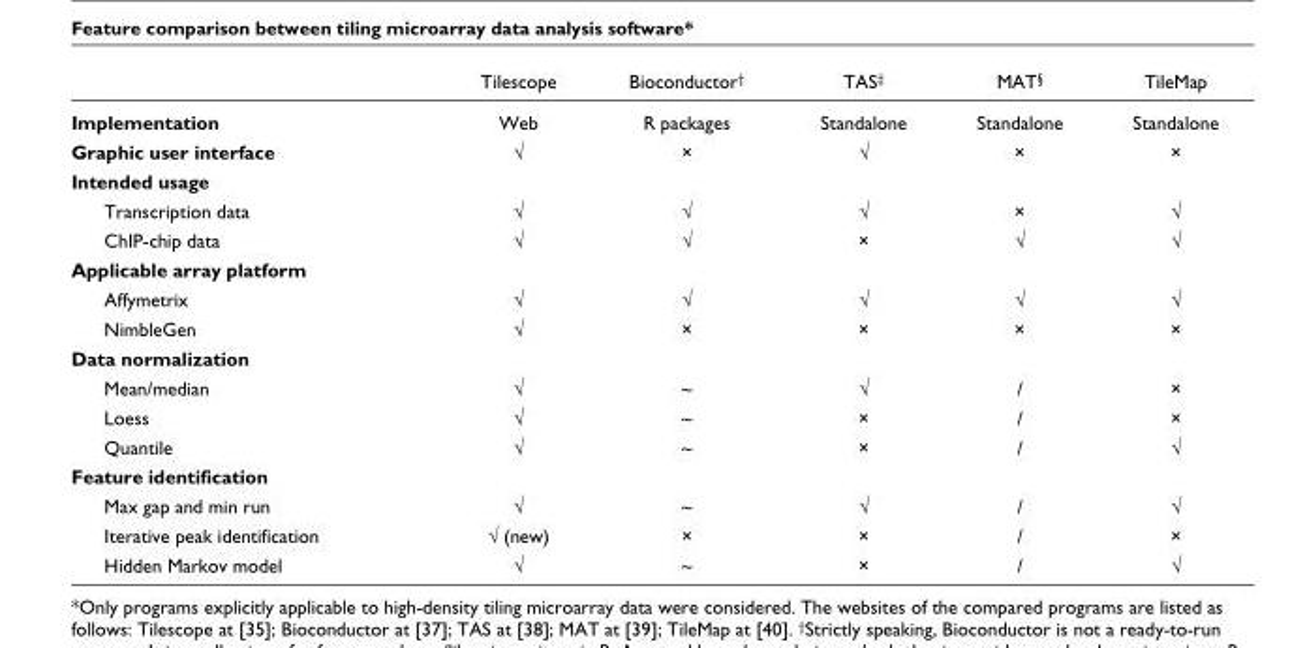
<table><thead><tr><td></td><td>Tilescope</td><td>Bioconductor<sup>†</sup></td><td>TAS<sup>‡</sup></td><td>MAT<sup>§</sup></td><td>TileMap</td></tr></thead><tbody><tr><td>Implementation</td><td>Web</td><td>R packages</td><td>Standalone</td><td>Standalone</td><td>Standalone</td></tr><tr><td>Graphic user interface</td><td>√</td><td>×</td><td>√</td><td>×</td><td>×</td></tr><tr><td colspan="6">Intended usage</td></tr><tr><td>Transcription data</td><td>√</td><td>√</td><td>√</td><td>×</td><td>√</td></tr><tr><td>ChIP-chip data</td><td>√</td><td>√</td><td>×</td><td>√</td><td>√</td></tr><tr><td colspan="6">Applicable array platform</td></tr><tr><td>Affymetrix</td><td>√</td><td>√</td><td>√</td><td>√</td><td>√</td></tr><tr><td>NimbleGen</td><td>√</td><td>×</td><td>×</td><td>×</td><td>×</td></tr><tr><td colspan="6">Data normalization</td></tr><tr><td>Mean/median</td><td>√</td><td>~</td><td>√</td><td>/</td><td>×</td></tr><tr><td>Loess</td><td>√</td><td>~</td><td>×</td><td>/</td><td>×</td></tr><tr><td>Quantile</td><td>√</td><td>~</td><td>×</td><td>/</td><td>√</td></tr><tr><td colspan="6">Feature identification</td></tr><tr><td>Max gap and min run</td><td>√</td><td>~</td><td>√</td><td>/</td><td>√</td></tr><tr><td>Iterative peak identification</td><td>√ (new)</td><td>×</td><td>×</td><td>/</td><td>×</td></tr><tr><td>Hidden Markov model</td><td>√</td><td>~</td><td>×</td><td>/</td><td>√</td></tr></tbody></table>